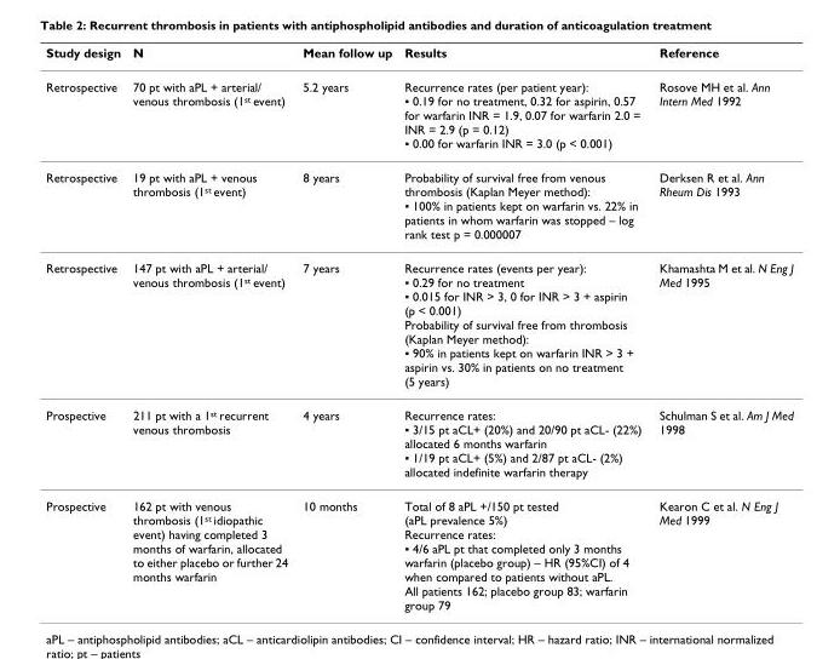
<table><thead><tr><td>Study design</td><td>N</td><td>Mean follow up</td><td>Results</td><td>Reference</td></tr></thead><tbody><tr><td>Retrospective</td><td>70 pt with aPL + arterial/ venous thrombosis (1<sup>st</sup> event)</td><td>5.2 years</td><td>Recurrence rates (per patient year): ▪ 0.19 for no treatment, 0.32 for aspirin, 0.57 for warfarin INR = 1.9, 0.07 for warfarin 2.0 = INR = 2.9 (p = 0.12) ▪ 0.00 for warfarin INR = 3.0 (p &lt; 0.001)</td><td>Rosove MH et al. Ann Intern Med 1992</td></tr><tr><td>Retrospective</td><td>19 pt with aPL + venous thrombosis (1<sup>st</sup> event)</td><td>8 years</td><td>Probability of survival free from venous thrombosis (Kaplan Meyer method): ▪ 100% in patients kept on warfarin vs. 22% in patients in whom warfarin was stopped – log rank test p = 0.000007</td><td>Derksen R et al. Ann Rheum Dis 1993</td></tr><tr><td>Retrospective</td><td>147 pt with aPL + arterial/ venous thrombosis (1<sup>st</sup> event)</td><td>7 years</td><td>Recurrence rates (events per year): ▪ 0.29 for no treatment ▪ 0.015 for INR &gt; 3, 0 for INR &gt; 3 + aspirin (p &lt; 0.001) Probability of survival free from thrombosis (Kaplan Meyer method): ▪ 90% in patients kept on warfarin INR &gt; 3 + aspirin vs. 30% in patients on no treatment (5 years)</td><td>Khamashta M et al. N Eng J Med 1995</td></tr><tr><td>Prospective</td><td>211 pt with a 1<sup>st</sup> recurrent venous thrombosis</td><td>4 years</td><td>Recurrence rates: ▪ 3/15 pt aCL+ (20%) and 20/90 pt aCL- (22%) allocated 6 months warfarin ▪ 1/19 pt aCL+ (5%) and 2/87 pt aCL- (2%) allocated indefinite warfarin therapy</td><td>Schulman S et al. Am J Med 1998</td></tr><tr><td>Prospective</td><td>162 pt with venous thrombosis (1<sup>st</sup> idiopathic event) having completed 3 months of warfarin, allocated to either placebo or further 24 months warfarin</td><td>10 months</td><td>Total of 8 aPL +/150 pt tested (aPL prevalence 5%) Recurrence rates: ▪ 4/6 aPL pt that completed only 3 months warfarin (placebo group) – HR (95%CI) of 4 when compared to patients without aPL. All patients 162; placebo group 83; warfarin group 79</td><td>Kearon C et al. N Eng J Med 1999</td></tr></tbody></table>